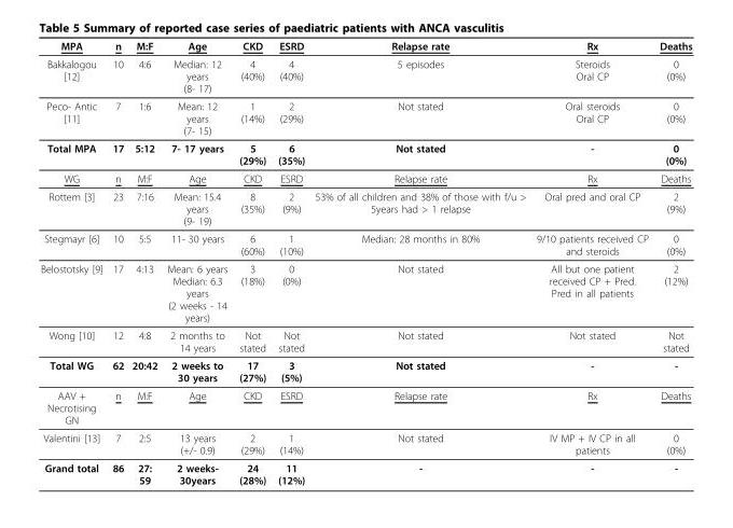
<table><thead><tr><td>MPA</td><td>n</td><td>M:F</td><td>Age</td><td>CKD</td><td>ESRD</td><td>Relapse rate</td><td>Rx</td><td>Deaths</td></tr></thead><tbody><tr><td>Bakkalogou [12]</td><td>10</td><td>4:6</td><td>Median: 12 years (8- 17)</td><td>4 (40%)</td><td>4 (40%)</td><td>5 episodes</td><td>Steroids Oral CP</td><td>0 (0%)</td></tr><tr><td>Peco- Antic [11]</td><td>7</td><td>1:6</td><td>Mean: 12 years (7- 15)</td><td>1 (14%)</td><td>2 (29%)</td><td>Not stated</td><td>Oral steroids Oral CP</td><td>0 (0%)</td></tr><tr><td>Total MPA</td><td>17</td><td>5:12</td><td>7- 17 years</td><td>5 (29%)</td><td>6 (35%)</td><td>Not stated</td><td>-</td><td>0 (0%)</td></tr><tr><td>WG</td><td>n</td><td>M:F</td><td>Age</td><td>CKD</td><td>ESRD</td><td>Relapse rate</td><td>Rx</td><td>Deaths</td></tr><tr><td>Rottem [3]</td><td>23</td><td>7:16</td><td>Mean: 15.4 years (9- 19)</td><td>8 (35%)</td><td>2 (9%)</td><td>53% of all children and 38% of those with f/u &gt; 5years had &gt; 1 relapse</td><td>Oral pred and oral CP</td><td>2 (9%)</td></tr><tr><td>Stegmayr [6]</td><td>10</td><td>5:5</td><td>11- 30 years</td><td>6 (60%)</td><td>1 (10%)</td><td>Median: 28 months in 80%</td><td>9/10 patients received CP and steroids</td><td>0 (0%)</td></tr><tr><td>Belostotsky [9]</td><td>17</td><td>4:13</td><td>Mean: 6 years Median: 6.3 years (2 weeks - 14 years)</td><td>3 (18%)</td><td>0 (0%)</td><td>Not stated</td><td>All but one patient received CP + Pred. Pred in all patients</td><td>2 (12%)</td></tr><tr><td>Wong [10]</td><td>12</td><td>4:8</td><td>2 months to 14 years</td><td>Not stated</td><td>Not stated</td><td>Not stated</td><td>Not stated</td><td>Not stated</td></tr><tr><td>Total WG</td><td>62</td><td>20:42</td><td>2 weeks to 30 years</td><td>17 (27%)</td><td>3 (5%)</td><td>Not stated</td><td>-</td><td>-</td></tr><tr><td>AAV + Necrotising GN</td><td>n</td><td>M:F</td><td>Age</td><td>CKD</td><td>ESRD</td><td>Relapse rate</td><td>Rx</td><td>Deaths</td></tr><tr><td>Valentini [13]</td><td>7</td><td>2:5</td><td>13 years (+/- 0.9)</td><td>2 (29%)</td><td>1 (14%)</td><td>Not stated</td><td>IV MP + IV CP in all patients</td><td>0 (0%)</td></tr><tr><td>Grand total</td><td>86</td><td>27: 59</td><td>2 weeks- 30years</td><td>24 (28%)</td><td>11 (12%)</td><td>-</td><td>-</td><td>-</td></tr></tbody></table>